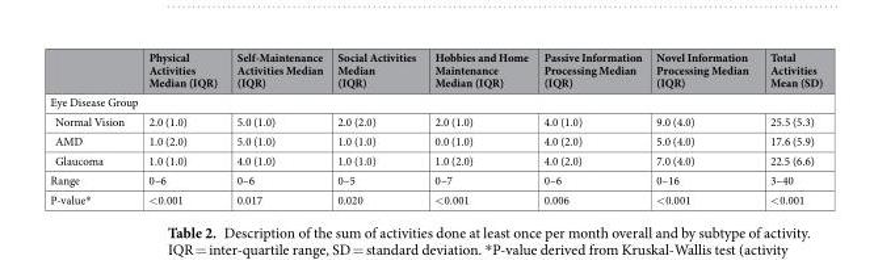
<table><thead><tr><td></td><td>Physical Activities Median (IQR)</td><td>Self-Maintenance Activities Median (IQR)</td><td>Social Activities Median (IQR)</td><td>Hobbies and Home Maintenance Median (IQR)</td><td>Passive Information Processing Median (IQR)</td><td>Novel Information Processing Median (IQR)</td><td>Total Activities Mean (SD)</td></tr></thead><tbody><tr><td colspan="8">Eye Disease Group</td></tr><tr><td>Normal Vision</td><td>2.0 (1.0)</td><td>5.0 (1.0)</td><td>2.0 (2.0)</td><td>2.0 (1.0)</td><td>4.0 (1.0)</td><td>9.0 (4.0)</td><td>25.5 (5.3)</td></tr><tr><td>AMD</td><td>1.0 (2.0)</td><td>5.0 (1.0)</td><td>1.0 (1.0)</td><td>0.0 (1.0)</td><td>4.0 (2.0)</td><td>5.0 (4.0)</td><td>17.6 (5.9)</td></tr><tr><td>Glaucoma</td><td>1.0 (1.0)</td><td>4.0 (1.0)</td><td>1.0 (1.0)</td><td>1.0 (2.0)</td><td>4.0 (2.0)</td><td>7.0 (4.0)</td><td>22.5 (6.6)</td></tr><tr><td>Range</td><td>0–6</td><td>0–6</td><td>0–5</td><td>0–7</td><td>0–6</td><td>0–16</td><td>3–40</td></tr><tr><td>P-value*</td><td>&lt;0.001</td><td>0.017</td><td>0.020</td><td>&lt;0.001</td><td>0.006</td><td>&lt;0.001</td><td>&lt;0.001</td></tr></tbody></table>